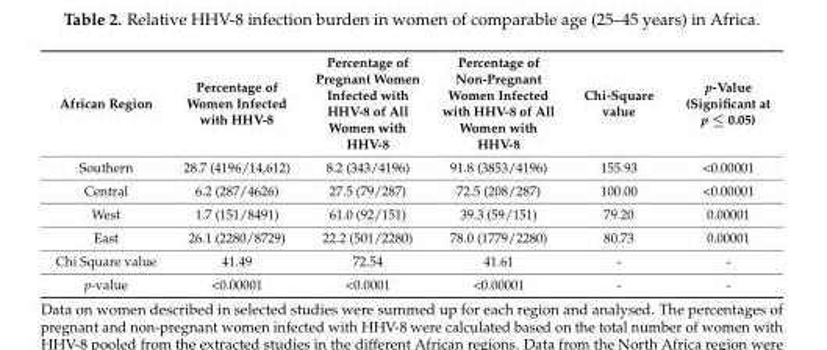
<table><thead><tr><td>African Region</td><td>Percentage of Women Infected with HHV-8</td><td>Percentage of Pregnant Women Infected with HHV-8 of All Women with HHV-8</td><td>Percentage of Non-Pregnant Women Infected with HHV-8 of All Women with HHV-8</td><td>Chi-Square value</td><td>p-Value (Significant at p ≤ 0.05)</td></tr></thead><tbody><tr><td>Southern</td><td>28.7 (4196/14,612)</td><td>8.2 (343/4196)</td><td>91.8 (3853/4196)</td><td>155.93</td><td>&lt;0.00001</td></tr><tr><td>Central</td><td>6.2 (287/4626)</td><td>27.5 (79/287)</td><td>72.5 (208/287)</td><td>100.00</td><td>&lt;0.00001</td></tr><tr><td>West</td><td>1.7 (151/8491)</td><td>61.0 (92/151)</td><td>39.3 (59/151)</td><td>79.20</td><td>0.00001</td></tr><tr><td>East</td><td>26.1 (2280/8729)</td><td>22.2 (501/2280)</td><td>78.0 (1779/2280)</td><td>80.73</td><td>0.00001</td></tr><tr><td>Chi Square value</td><td>41.49</td><td>72.54</td><td>41.61</td><td>-</td><td>-</td></tr><tr><td>p-value</td><td>&lt;0.00001</td><td>&lt;0.0001</td><td>&lt;0.00001</td><td>-</td><td>-</td></tr></tbody></table>